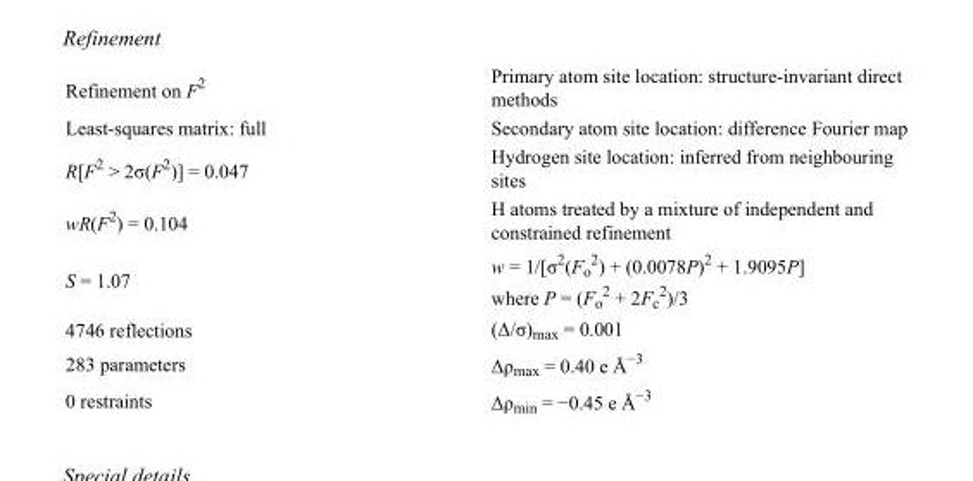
<table><tbody><tr><td>Refinement on F<sup>2</sup></td><td>Primary atom site location: structure-invariant direct methods</td></tr><tr><td>Least-squares matrix: full</td><td>Secondary atom site location: difference Fourier map</td></tr><tr><td>R[F<sup>2</sup> &gt; 2σ(F<sup>2</sup>)] = 0.047</td><td>Hydrogen site location: inferred from neighbouring sites</td></tr><tr><td>wR(F<sup>2</sup>) = 0.104</td><td>H atoms treated by a mixture of independent and constrained refinement</td></tr><tr><td>S = 1.07</td><td>w = 1/[σ<sup>2</sup>(F<sub>o</sub> <sup>2</sup>) + (0.0078P)<sup>2</sup> + 1.9095P] where P = (F<sub>o</sub> <sup>2</sup> + 2F<sub>c</sub> <sup>2</sup>)/3</td></tr><tr><td>4746 reflections</td><td>(Δ/σ)<sub>max</sub> = 0.001</td></tr><tr><td>283 parameters</td><td>Δρ<sub>max</sub> = 0.40 e Å<sup>−3</sup></td></tr><tr><td>0 restraints</td><td>Δρ<sub>min</sub> = −0.45 e Å<sup>−3</sup></td></tr></tbody></table>